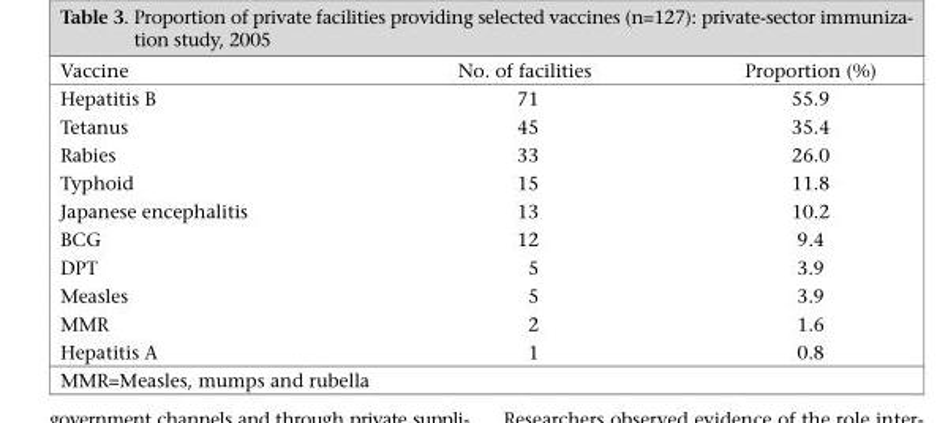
<table><thead><tr><td>Vaccine</td><td>No. of facilities</td><td>Proportion (%)</td></tr></thead><tbody><tr><td>Hepatitis B</td><td>71</td><td>55.9</td></tr><tr><td>Tetanus</td><td>45</td><td>35.4</td></tr><tr><td>Rabies</td><td>33</td><td>26.0</td></tr><tr><td>Typhoid</td><td>15</td><td>11.8</td></tr><tr><td>Japanese encephalitis</td><td>13</td><td>10.2</td></tr><tr><td>BCG</td><td>12</td><td>9.4</td></tr><tr><td>DPT</td><td>5</td><td>3.9</td></tr><tr><td>Measles</td><td>5</td><td>3.9</td></tr><tr><td>MMR</td><td>2</td><td>1.6</td></tr><tr><td>Hepatitis A</td><td>1</td><td>0.8</td></tr></tbody></table>